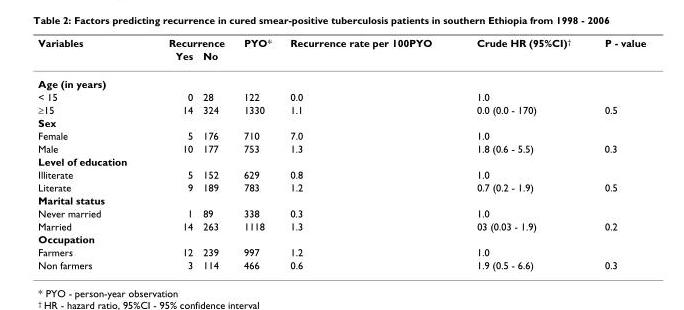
<table><thead><tr><td rowspan="2">Variables</td><td colspan="2">Recurrence</td><td rowspan="2">PYO*</td><td rowspan="2">Recurrence rate per 100PYO</td><td rowspan="2">Crude HR (95%CI)<sup>†</sup></td><td rowspan="2">P - value</td></tr><tr><td>Yes</td><td>No</td></tr></thead><tbody><tr><td colspan="7">Age (in years)</td></tr><tr><td>&lt; 15</td><td>0</td><td>28</td><td>122</td><td>0.0</td><td>1.0</td><td></td></tr><tr><td>≥15</td><td>14</td><td>324</td><td>1330</td><td>1.1</td><td>0.0 (0.0 - 170)</td><td>0.5</td></tr><tr><td colspan="7">Sex</td></tr><tr><td>Female</td><td>5</td><td>176</td><td>710</td><td>7.0</td><td>1.0</td><td></td></tr><tr><td>Male</td><td>10</td><td>177</td><td>753</td><td>1.3</td><td>1.8 (0.6 - 5.5)</td><td>0.3</td></tr><tr><td colspan="7">Level of education</td></tr><tr><td>Illiterate</td><td>5</td><td>152</td><td>629</td><td>0.8</td><td>1.0</td><td></td></tr><tr><td>Literate</td><td>9</td><td>189</td><td>783</td><td>1.2</td><td>0.7 (0.2 - 1.9)</td><td>0.5</td></tr><tr><td colspan="7">Marital status</td></tr><tr><td>Never married</td><td>1</td><td>89</td><td>338</td><td>0.3</td><td>1.0</td><td></td></tr><tr><td>Married</td><td>14</td><td>263</td><td>1118</td><td>1.3</td><td>03 (0.03 - 1.9)</td><td>0.2</td></tr><tr><td colspan="7">Occupation</td></tr><tr><td>Farmers</td><td>12</td><td>239</td><td>997</td><td>1.2</td><td>1.0</td><td></td></tr><tr><td>Non farmers</td><td>3</td><td>114</td><td>466</td><td>0.6</td><td>1.9 (0.5 - 6.6)</td><td>0.3</td></tr></tbody></table>